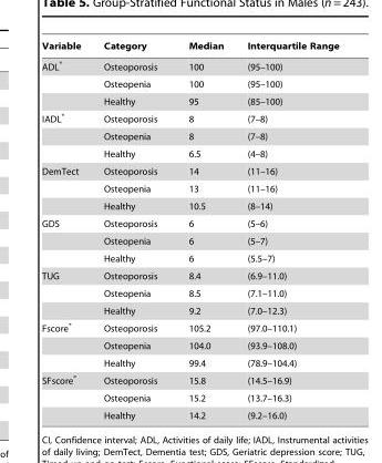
<table><thead><tr><td>Variable</td><td>Category</td><td>Median</td><td>Interquartile Range</td></tr></thead><tbody><tr><td rowspan="3">ADL*</td><td>Osteoporosis</td><td>100</td><td>(95–100)</td></tr><tr><td>Osteopenia</td><td>100</td><td>(95–100)</td></tr><tr><td>Healthy</td><td>95</td><td>(85–100)</td></tr><tr><td rowspan="3">IADL*</td><td>Osteoporosis</td><td>8</td><td>(7–8)</td></tr><tr><td>Osteopenia</td><td>8</td><td>(7–8)</td></tr><tr><td>Healthy</td><td>6.5</td><td>(4–8)</td></tr><tr><td rowspan="3">DemTect</td><td>Osteoporosis</td><td>14</td><td>(11–16)</td></tr><tr><td>Osteopenia</td><td>13</td><td>(11–16)</td></tr><tr><td>Healthy</td><td>10.5</td><td>(8–14)</td></tr><tr><td rowspan="3">GDS</td><td>Osteoporosis</td><td>6</td><td>(5–6)</td></tr><tr><td>Osteopenia</td><td>6</td><td>(5–7)</td></tr><tr><td>Healthy</td><td>6</td><td>(5.5–7)</td></tr><tr><td rowspan="3">TUG</td><td>Osteoporosis</td><td>8.4</td><td>(6.9–11.0)</td></tr><tr><td>Osteopenia</td><td>8.5</td><td>(7.1–11.0)</td></tr><tr><td>Healthy</td><td>9.2</td><td>(7.0–12.3)</td></tr><tr><td rowspan="3">Fscore*</td><td>Osteoporosis</td><td>105.2</td><td>(97.0–110.1)</td></tr><tr><td>Osteopenia</td><td>104.0</td><td>(93.9–108.0)</td></tr><tr><td>Healthy</td><td>99.4</td><td>(78.9–104.4)</td></tr><tr><td rowspan="3">SFscore*</td><td>Osteoporosis</td><td>15.8</td><td>(14.5–16.9)</td></tr><tr><td>Osteopenia</td><td>15.2</td><td>(13.7–16.3)</td></tr><tr><td>Healthy</td><td>14.2</td><td>(9.2–16.0)</td></tr></tbody></table>